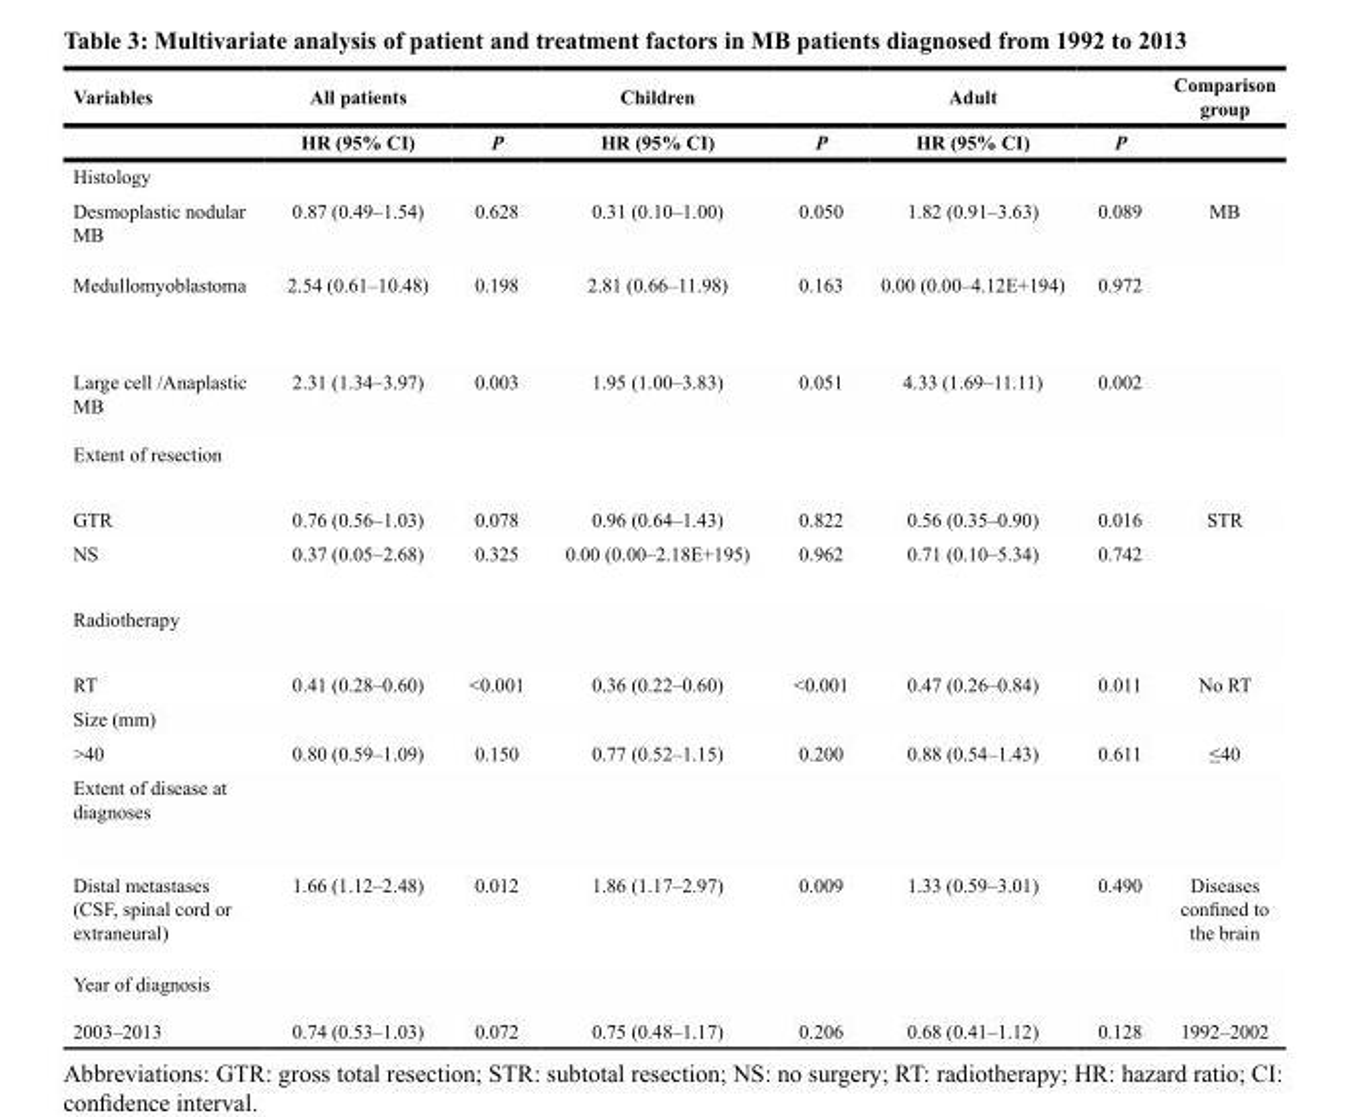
<table><thead><tr><td rowspan="2">Variables</td><td rowspan="2">All patients Hr (95% cI)</td><td rowspan="2">P</td><td rowspan="2">children Hr (95% cI)</td><td rowspan="2">P</td><td rowspan="2">Adult Hr (95% cI)</td><td rowspan="2">P</td><td rowspan="2">comparison group</td></tr><tr></tr></thead><tbody><tr><td colspan="8">Histology</td></tr><tr><td>Desmoplastic nodular MB</td><td>0.87 (0.49–1.54)</td><td>0.628</td><td>0.31 (0.10–1.00)</td><td>0.050</td><td>1.82 (0.91–3.63)</td><td>0.089</td><td>MB</td></tr><tr><td>Medullomyoblastoma</td><td>2.54 (0.61–10.48)</td><td>0.198</td><td>2.81 (0.66–11.98)</td><td>0.163</td><td>0.00 (0.00–4.12E+194)</td><td>0.972</td><td></td></tr><tr><td>Large cell /Anaplastic MB</td><td>2.31 (1.34–3.97)</td><td>0.003</td><td>1.95 (1.00–3.83)</td><td>0.051</td><td>4.33 (1.69–11.11)</td><td>0.002</td><td></td></tr><tr><td colspan="8">Extent of resection</td></tr><tr><td>GTR</td><td>0.76 (0.56–1.03)</td><td>0.078</td><td>0.96 (0.64–1.43)</td><td>0.822</td><td>0.56 (0.35–0.90)</td><td>0.016</td><td>STR</td></tr><tr><td>NS</td><td>0.37 (0.05–2.68)</td><td>0.325</td><td>0.00 (0.00–2.18E+195)</td><td>0.962</td><td>0.71 (0.10–5.34)</td><td>0.742</td><td></td></tr><tr><td colspan="8">Radiotherapy</td></tr><tr><td>RT</td><td>0.41 (0.28–0.60)</td><td>&lt;0.001</td><td>0.36 (0.22–0.60)</td><td>&lt;0.001</td><td>0.47 (0.26–0.84)</td><td>0.011</td><td>No RT</td></tr><tr><td colspan="8">Size (mm)</td></tr><tr><td>&gt;40</td><td>0.80 (0.59–1.09)</td><td>0.150</td><td>0.77 (0.52–1.15)</td><td>0.200</td><td>0.88 (0.54–1.43)</td><td>0.611</td><td>≤40</td></tr><tr><td colspan="8">Extent of disease at diagnoses</td></tr><tr><td>Distal metastases (CSF, spinal cord or extraneural)</td><td>1.66 (1.12–2.48)</td><td>0.012</td><td>1.86 (1.17–2.97)</td><td>0.009</td><td>1.33 (0.59–3.01)</td><td>0.490</td><td>Diseases confined to the brain</td></tr><tr><td>Year of diagnosis 2003–2013</td><td>0.74 (0.53–1.03)</td><td>0.072</td><td>0.75 (0.48–1.17)</td><td>0.206</td><td>0.68 (0.41–1.12)</td><td>0.128</td><td>1992–2002</td></tr></tbody></table>